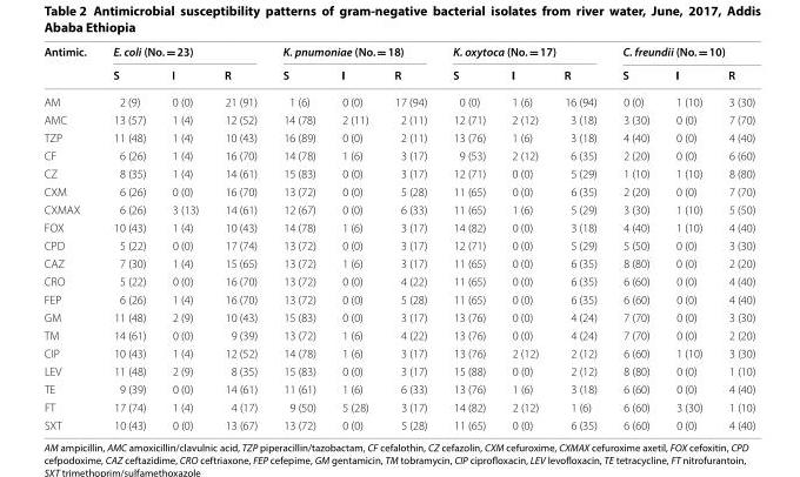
<table><thead><tr><td rowspan="2">Antimic.</td><td colspan="3">E. coli (No. = 23)</td><td colspan="3">K. pnumoniae (No. = 18)</td><td colspan="3">K. oxytoca (No. = 17)</td><td colspan="3">C. freundii (No. = 10)</td></tr><tr><td>S</td><td>I</td><td>R</td><td>S</td><td>I</td><td>R</td><td>S</td><td>I</td><td>R</td><td>S</td><td>I</td><td>R</td></tr></thead><tbody><tr><td>AM</td><td>2 (9)</td><td>0 (0)</td><td>21 (91)</td><td>1 (6)</td><td>0 (0)</td><td>17 (94)</td><td>0 (0)</td><td>1 (6)</td><td>16 (94)</td><td>0 (0)</td><td>1 (10)</td><td>3 (30)</td></tr><tr><td>AMC</td><td>13 (57)</td><td>1 (4)</td><td>12 (52)</td><td>14 (78)</td><td>2 (11)</td><td>2 (11)</td><td>12 (71)</td><td>2 (12)</td><td>3 (18)</td><td>3 (30)</td><td>0 (0)</td><td>7 (70)</td></tr><tr><td>TZP</td><td>11 (48)</td><td>1 (4)</td><td>10 (43)</td><td>16 (89)</td><td>0 (0)</td><td>2 (11)</td><td>13 (76)</td><td>1 (6)</td><td>3 (18)</td><td>4 (40)</td><td>0 (0)</td><td>4 (40)</td></tr><tr><td>CF</td><td>6 (26)</td><td>1 (4)</td><td>16 (70)</td><td>14 (78)</td><td>1 (6)</td><td>3 (17)</td><td>9 (53)</td><td>2 (12)</td><td>6 (35)</td><td>2 (20)</td><td>0 (0)</td><td>6 (60)</td></tr><tr><td>CZ</td><td>8 (35)</td><td>1 (4)</td><td>14 (61)</td><td>15 (83)</td><td>0 (0)</td><td>3 (17)</td><td>12 (71)</td><td>0 (0)</td><td>5 (29)</td><td>1 (10)</td><td>1 (10)</td><td>8 (80)</td></tr><tr><td>CXM</td><td>6 (26)</td><td>0 (0)</td><td>16 (70)</td><td>13 (72)</td><td>0 (0)</td><td>5 (28)</td><td>11 (65)</td><td>0 (0)</td><td>6 (35)</td><td>2 (20)</td><td>0 (0)</td><td>7 (70)</td></tr><tr><td>CXMAX</td><td>6 (26)</td><td>3 (13)</td><td>14 (61)</td><td>12 (67)</td><td>0 (0)</td><td>6 (33)</td><td>11 (65)</td><td>1 (6)</td><td>5 (29)</td><td>3 (30)</td><td>1 (10)</td><td>5 (50)</td></tr><tr><td>FOX</td><td>10 (43)</td><td>1 (4)</td><td>10 (43)</td><td>14 (78)</td><td>1 (6)</td><td>3 (17)</td><td>14 (82)</td><td>0 (0)</td><td>3 (18)</td><td>4 (40)</td><td>1 (10)</td><td>4 (40)</td></tr><tr><td>CPD</td><td>5 (22)</td><td>0 (0)</td><td>17 (74)</td><td>13 (72)</td><td>0 (0)</td><td>3 (17)</td><td>12 (71)</td><td>0 (0)</td><td>5 (29)</td><td>5 (50)</td><td>0 (0)</td><td>3 (30)</td></tr><tr><td>CAZ</td><td>7 (30)</td><td>1 (4)</td><td>15 (65)</td><td>13 (72)</td><td>1 (6)</td><td>3 (17)</td><td>11 (65)</td><td>0 (0)</td><td>6 (35)</td><td>8 (80)</td><td>0 (0)</td><td>2 (20)</td></tr><tr><td>CRO</td><td>5 (22)</td><td>0 (0)</td><td>16 (70)</td><td>13 (72)</td><td>0 (0)</td><td>4 (22)</td><td>11 (65)</td><td>0 (0)</td><td>6 (35)</td><td>6 (60)</td><td>0 (0)</td><td>4 (40)</td></tr><tr><td>FEP</td><td>6 (26)</td><td>1 (4)</td><td>16 (70)</td><td>13 (72)</td><td>0 (0)</td><td>5 (28)</td><td>11 (65)</td><td>0 (0)</td><td>6 (35)</td><td>6 (60)</td><td>0 (0)</td><td>4 (40)</td></tr><tr><td>GM</td><td>11 (48)</td><td>2 (9)</td><td>10 (43)</td><td>15 (83)</td><td>0 (0)</td><td>3 (17)</td><td>13 (76)</td><td>0 (0)</td><td>4 (24)</td><td>7 (70)</td><td>0 (0)</td><td>3 (30)</td></tr><tr><td>TM</td><td>14 (61)</td><td>0 (0)</td><td>9 (39)</td><td>13 (72)</td><td>1 (6)</td><td>4 (22)</td><td>13 (76)</td><td>0 (0)</td><td>4 (24)</td><td>7 (70)</td><td>0 (0)</td><td>2 (20)</td></tr><tr><td>CIP</td><td>10 (43)</td><td>1 (4)</td><td>12 (52)</td><td>14 (78)</td><td>1 (6)</td><td>3 (17)</td><td>13 (76)</td><td>2 (12)</td><td>2 (12)</td><td>6 (60)</td><td>1 (10)</td><td>3 (30)</td></tr><tr><td>LEV</td><td>11 (48)</td><td>2 (9)</td><td>8 (35)</td><td>15 (83)</td><td>0 (0)</td><td>3 (17)</td><td>15 (88)</td><td>0 (0)</td><td>2 (12)</td><td>8 (80)</td><td>0 (0)</td><td>1 (10)</td></tr><tr><td>TE</td><td>9 (39)</td><td>0 (0)</td><td>14 (61)</td><td>11 (61)</td><td>1 (6)</td><td>6 (33)</td><td>13 (76)</td><td>1 (6)</td><td>3 (18)</td><td>6 (60)</td><td>0 (0)</td><td>4 (40)</td></tr><tr><td>FT</td><td>17 (74)</td><td>1 (4)</td><td>4 (17)</td><td>9 (50)</td><td>5 (28)</td><td>3 (17)</td><td>14 (82)</td><td>2 (12)</td><td>1 (6)</td><td>6 (60)</td><td>3 (30)</td><td>1 (10)</td></tr><tr><td>SXT</td><td>10 (43)</td><td>0 (0)</td><td>13 (67)</td><td>13 (72)</td><td>0 (0)</td><td>5 (28)</td><td>11 (65)</td><td>0 (0)</td><td>6 (35)</td><td>6 (60)</td><td>0 (0)</td><td>4 (40)</td></tr></tbody></table>